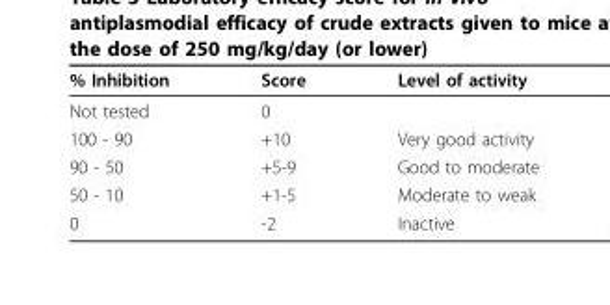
<table><thead><tr><td>% Inhibition</td><td>Score</td><td>Level of activity</td></tr></thead><tbody><tr><td>Not tested</td><td>0</td><td></td></tr><tr><td>100 - 90</td><td>+10</td><td>Very good activity</td></tr><tr><td>90 - 50</td><td>+5-9</td><td>Good to moderate</td></tr><tr><td>50 - 10</td><td>+1-5</td><td>Moderate to weak</td></tr><tr><td>0</td><td>-2</td><td>Inactive</td></tr></tbody></table>